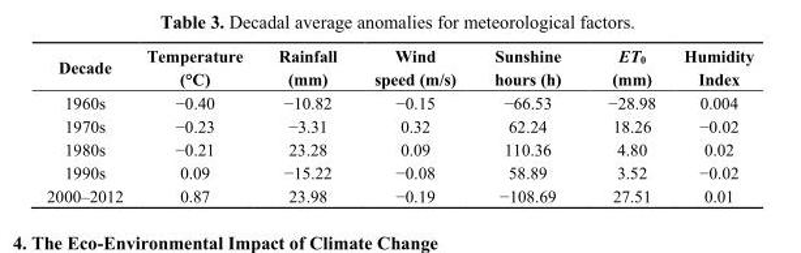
<table><thead><tr><td>Decade</td><td>Temperature (°C)</td><td>Rainfall (mm)</td><td>Wind speed (m/s)</td><td>Sunshine hours (h)</td><td>ET<sub>0</sub> (mm)</td><td>Humidity Index</td></tr></thead><tbody><tr><td>1960s</td><td>−0.40</td><td>−10.82</td><td>−0.15</td><td>−66.53</td><td>−28.98</td><td>0.004</td></tr><tr><td>1970s</td><td>−0.23</td><td>−3.31</td><td>0.32</td><td>62.24</td><td>18.26</td><td>−0.02</td></tr><tr><td>1980s</td><td>−0.21</td><td>23.28</td><td>0.09</td><td>110.36</td><td>4.80</td><td>0.02</td></tr><tr><td>1990s</td><td>0.09</td><td>−15.22</td><td>−0.08</td><td>58.89</td><td>3.52</td><td>−0.02</td></tr><tr><td>2000–2012</td><td>0.87</td><td>23.98</td><td>−0.19</td><td>−108.69</td><td>27.51</td><td>0.01</td></tr></tbody></table>